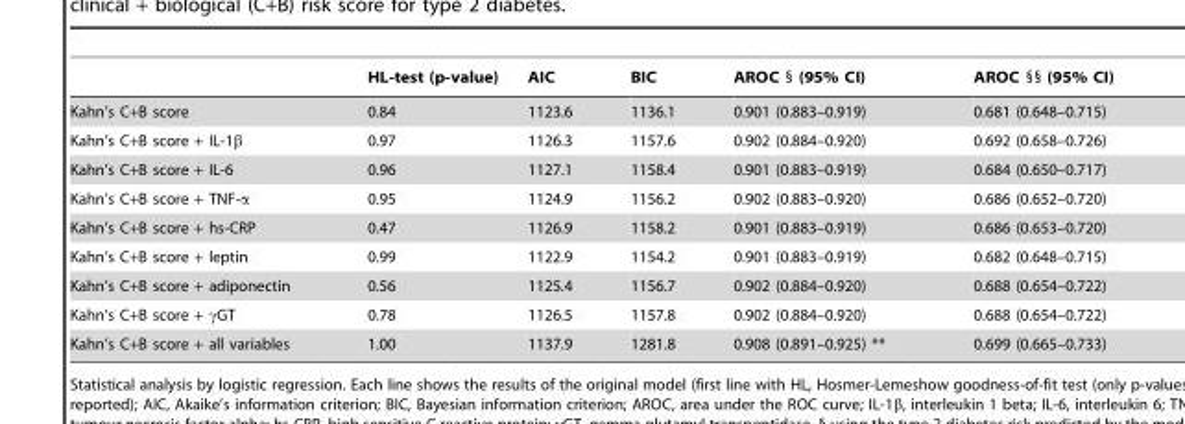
<table><thead><tr><td></td><td>HL-test (p-value)</td><td>AIC</td><td>BIC</td><td>AROC § (95% CI)</td><td>AROC §§ (95% CI)</td></tr></thead><tbody><tr><td>Kahn’s C+B score</td><td>0.84</td><td>1123.6</td><td>1136.1</td><td>0.901 (0.883–0.919)</td><td>0.681 (0.648–0.715)</td></tr><tr><td>Kahn’s C+B score + IL-1β</td><td>0.97</td><td>1126.3</td><td>1157.6</td><td>0.902 (0.884–0.920)</td><td>0.692 (0.658–0.726)</td></tr><tr><td>Kahn’s C+B score + IL-6</td><td>0.96</td><td>1127.1</td><td>1158.4</td><td>0.901 (0.883–0.919)</td><td>0.684 (0.650–0.717)</td></tr><tr><td>Kahn’s C+B score + TNF-α</td><td>0.95</td><td>1124.9</td><td>1156.2</td><td>0.902 (0.883–0.920)</td><td>0.686 (0.652–0.720)</td></tr><tr><td>Kahn’s C+B score + hs-CRP</td><td>0.47</td><td>1126.9</td><td>1158.2</td><td>0.901 (0.883–0.919)</td><td>0.686 (0.653–0.720)</td></tr><tr><td>Kahn’s C+B score + leptin</td><td>0.99</td><td>1122.9</td><td>1154.2</td><td>0.901 (0.883–0.919)</td><td>0.682 (0.648–0.715)</td></tr><tr><td>Kahn’s C+B score + adiponectin</td><td>0.56</td><td>1125.4</td><td>1156.7</td><td>0.902 (0.884–0.920)</td><td>0.688 (0.654–0.722)</td></tr><tr><td>Kahn’s C+B score + γGT</td><td>0.78</td><td>1126.5</td><td>1157.8</td><td>0.902 (0.884–0.920)</td><td>0.688 (0.654–0.722)</td></tr><tr><td>Kahn’s C+B score + all variables</td><td>1.00</td><td>1137.9</td><td>1281.8</td><td>0.908 (0.891–0.925) **</td><td>0.699 (0.665–0.733)</td></tr></tbody></table>